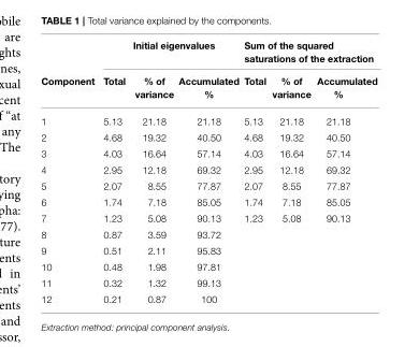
<table><thead><tr><td rowspan="2">Component</td><td colspan="3">Initial eigenvalues</td><td colspan="3">Sum of the squared saturations of the extraction</td></tr><tr><td>Total</td><td>% of variance</td><td>Accumulated %</td><td>Total</td><td>% of variance</td><td>Accumulated %</td></tr></thead><tbody><tr><td>1</td><td>5.13</td><td>21.18</td><td>21.18</td><td>5.13</td><td>21.18</td><td>21.18</td></tr><tr><td>2</td><td>4.68</td><td>19.32</td><td>40.50</td><td>4.68</td><td>19.32</td><td>40.50</td></tr><tr><td>3</td><td>4.03</td><td>16.64</td><td>57.14</td><td>4.03</td><td>16.64</td><td>57.14</td></tr><tr><td>4</td><td>2.95</td><td>12.18</td><td>69.32</td><td>2.95</td><td>12.18</td><td>69.32</td></tr><tr><td>5</td><td>2.07</td><td>8.55</td><td>77.87</td><td>2.07</td><td>8.55</td><td>77.87</td></tr><tr><td>6</td><td>1.74</td><td>7.18</td><td>85.05</td><td>1.74</td><td>7.18</td><td>85.05</td></tr><tr><td>7</td><td>1.23</td><td>5.08</td><td>90.13</td><td>1.23</td><td>5.08</td><td>90.13</td></tr><tr><td>8</td><td>0.87</td><td>3.59</td><td>93.72</td><td></td><td></td><td></td></tr><tr><td>9</td><td>0.51</td><td>2.11</td><td>95.83</td><td></td><td></td><td></td></tr><tr><td>10</td><td>0.48</td><td>1.98</td><td>97.81</td><td></td><td></td><td></td></tr><tr><td>11</td><td>0.32</td><td>1.32</td><td>99.13</td><td></td><td></td><td></td></tr><tr><td>12</td><td>0.21</td><td>0.87</td><td>100</td><td></td><td></td><td></td></tr></tbody></table>